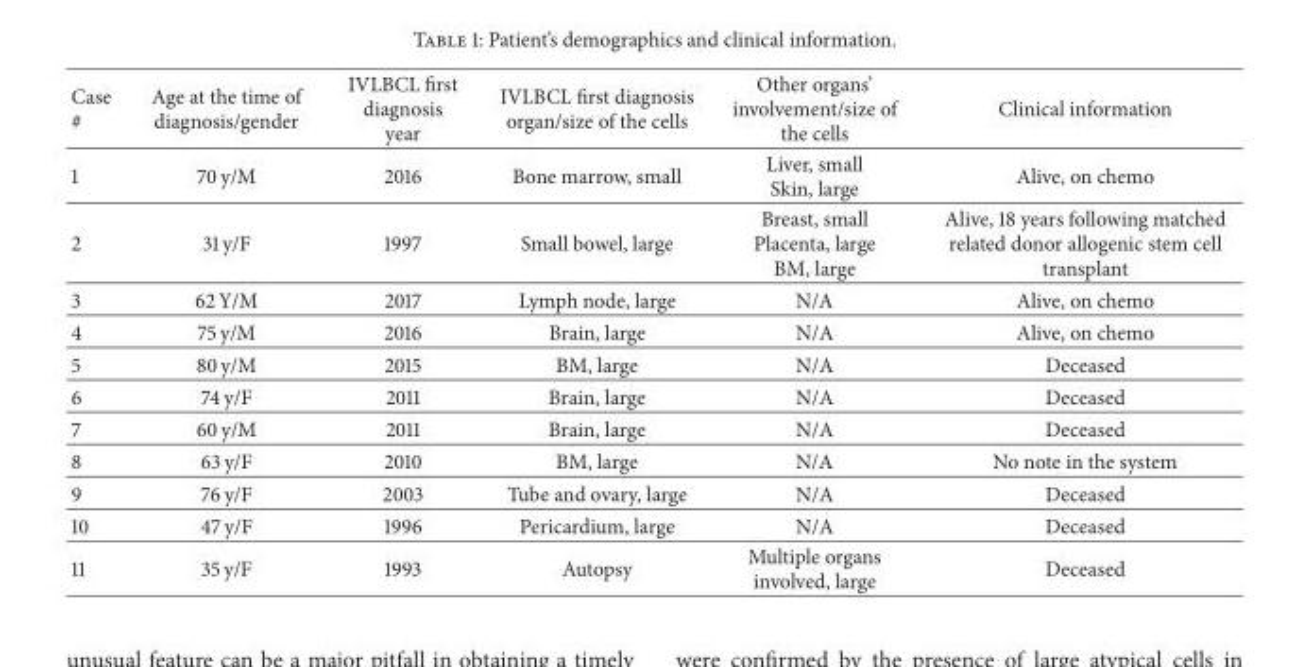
<table><thead><tr><td>Case #</td><td>Age at the time of diagnosis/gender</td><td>IVLBCL first diagnosis year</td><td>IVLBCL first diagnosis organ/size of the cells</td><td>Other organs’ involvement/size of the cells</td><td>Clinical information</td></tr></thead><tbody><tr><td>1</td><td>70 y/M</td><td>2016</td><td>Bone marrow, small</td><td>Liver, small Skin, large</td><td>Alive, on chemo</td></tr><tr><td>2</td><td>31 y/F</td><td>1997</td><td>Small bowel, large</td><td>Breast, small Placenta, large BM, large</td><td>Alive, 18 years following matched related donor allogenic stem cell transplant</td></tr><tr><td>3</td><td>62 Y/M</td><td>2017</td><td>Lymph node, large</td><td>N/A</td><td>Alive, on chemo</td></tr><tr><td>4</td><td>75 y/M</td><td>2016</td><td>Brain, large</td><td>N/A</td><td>Alive, on chemo</td></tr><tr><td>5</td><td>80 y/M</td><td>2015</td><td>BM, large</td><td>N/A</td><td>Deceased</td></tr><tr><td>6</td><td>74 y/F</td><td>2011</td><td>Brain, large</td><td>N/A</td><td>Deceased</td></tr><tr><td>7</td><td>60 y/M</td><td>2011</td><td>Brain, large</td><td>N/A</td><td>Deceased</td></tr><tr><td>8</td><td>63 y/F</td><td>2010</td><td>BM, large</td><td>N/A</td><td>No note in the system</td></tr><tr><td>9</td><td>76 y/F</td><td>2003</td><td>Tube and ovary, large</td><td>N/A</td><td>Deceased</td></tr><tr><td>10</td><td>47 y/F</td><td>1996</td><td>Pericardium, large</td><td>N/A</td><td>Deceased</td></tr><tr><td>11</td><td>35 y/F</td><td>1993</td><td>Autopsy</td><td>Multiple organs involved, large</td><td>Deceased</td></tr></tbody></table>